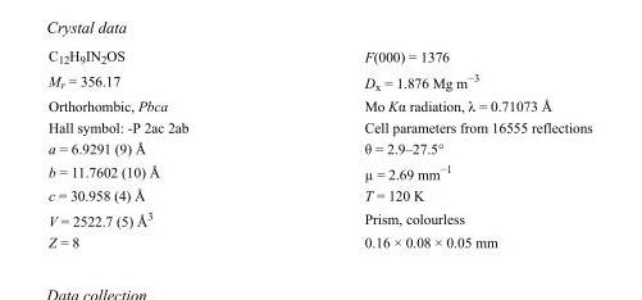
<table><tbody><tr><td>C<sub>12</sub>H<sub>9</sub>IN<sub>2</sub>OS</td><td>F(000) = 1376</td></tr><tr><td>M<sub>r</sub> = 356.17</td><td>D<sub>x</sub> = 1.876 Mg m<sup>−3</sup></td></tr><tr><td>Orthorhombic, Pbca</td><td>Mo Kα radiation, λ = 0.71073 Å</td></tr><tr><td>Hall symbol: -P 2ac 2ab</td><td>Cell parameters from 16555 reflections</td></tr><tr><td>a = 6.9291 (9) Å</td><td>θ = 2.9–27.5°</td></tr><tr><td>b = 11.7602 (10) Å</td><td>µ = 2.69 mm<sup>−1</sup></td></tr><tr><td>c = 30.958 (4) Å</td><td>T = 120 K</td></tr><tr><td>V = 2522.7 (5) Å<sup>3</sup></td><td>Prism, colourless</td></tr><tr><td>Z = 8</td><td>0.16 × 0.08 × 0.05 mm</td></tr></tbody></table>